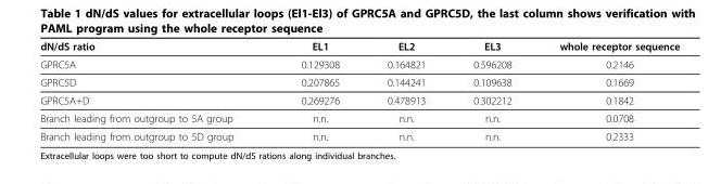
<table><thead><tr><td>dN/dS ratio</td><td>EL1</td><td>EL2</td><td>EL3</td><td>whole receptor sequence</td></tr></thead><tbody><tr><td>GPRC5A</td><td>0.129308</td><td>0.164821</td><td>0.596208</td><td>0.2146</td></tr><tr><td>GPRC5D</td><td>0.207865</td><td>0.144241</td><td>0.109638</td><td>0.1669</td></tr><tr><td>GPRC5A+D</td><td>0.269276</td><td>0.478913</td><td>0.302212</td><td>0.1842</td></tr><tr><td>Branch leading from outgroup to 5A group</td><td>n.n.</td><td>n.n.</td><td>n.n.</td><td>0.0708</td></tr><tr><td>Branch leading from outgroup to 5D group</td><td>n.n.</td><td>n.n.</td><td>n.n.</td><td>0.2333</td></tr></tbody></table>